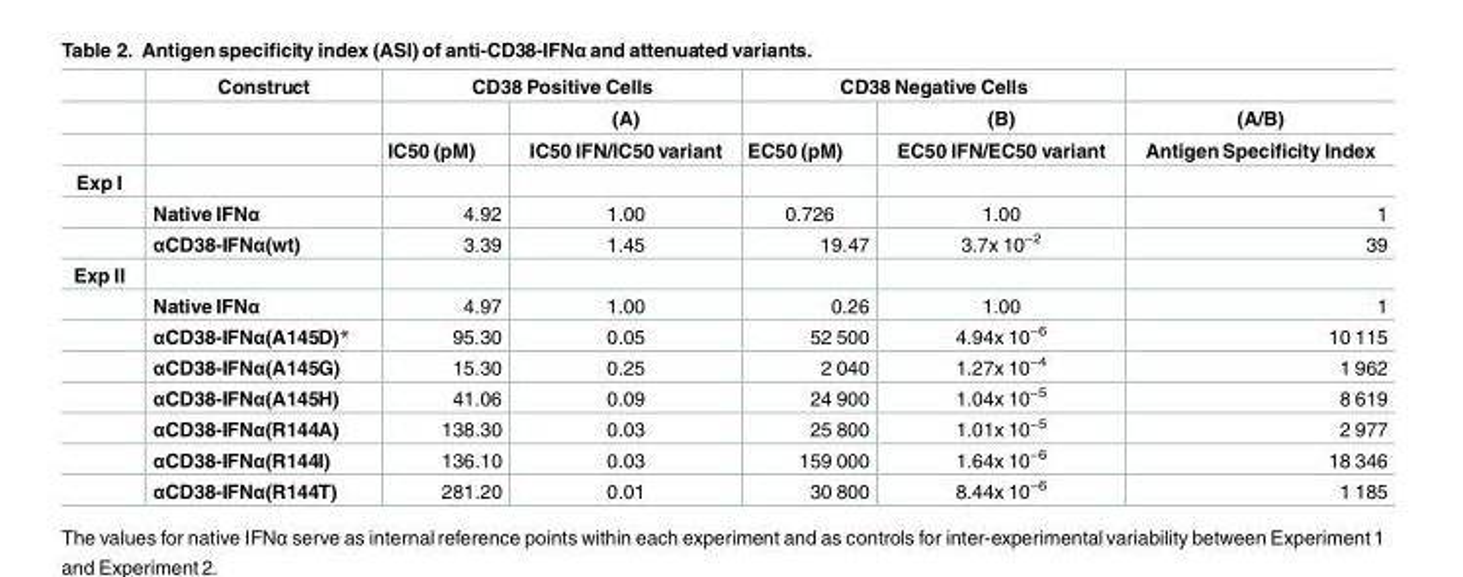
<table><thead><tr><td rowspan="3"></td><td rowspan="3">Construct</td><td colspan="2">CD38 Positive Cells</td><td colspan="2">CD38 Negative Cells</td><td rowspan="3">(A/B) Antigen Specificity Index</td></tr><tr><td rowspan="2">IC50 (pM)</td><td rowspan="2">(A) IC50 IFN/IC50 variant</td><td rowspan="2">EC50 (pM)</td><td rowspan="2">(B) EC50 IFN/EC50 variant</td></tr><tr></tr></thead><tbody><tr><td colspan="7">Exp I</td></tr><tr><td></td><td>Native IFNα</td><td>4.92</td><td>1.00</td><td>0.726</td><td>1.00</td><td>1</td></tr><tr><td></td><td>αCD38-IFNα(wt)</td><td>3.39</td><td>1.45</td><td>19.47</td><td>3.7x 10<sup>−2</sup></td><td>39</td></tr><tr><td colspan="7">Exp II</td></tr><tr><td></td><td>Native IFNα</td><td>4.97</td><td>1.00</td><td>0.26</td><td>1.00</td><td>1</td></tr><tr><td></td><td>αCD38-IFNα(A145D)*</td><td>95.30</td><td>0.05</td><td>52 500</td><td>4.94x 10<sup>−6</sup></td><td>10 115</td></tr><tr><td></td><td>αCD38-IFNα(A145G)</td><td>15.30</td><td>0.25</td><td>2 040</td><td>1.27x 10<sup>−4</sup></td><td>1 962</td></tr><tr><td></td><td>αCD38-IFNα(A145H)</td><td>41.06</td><td>0.09</td><td>24 900</td><td>1.04x 10<sup>−5</sup></td><td>8 619</td></tr><tr><td></td><td>αCD38-IFNα(R144A)</td><td>138.30</td><td>0.03</td><td>25 800</td><td>1.01x 10<sup>−5</sup></td><td>2 977</td></tr><tr><td></td><td>αCD38-IFNα(R144I)</td><td>136.10</td><td>0.03</td><td>159 000</td><td>1.64x 10<sup>−6</sup></td><td>18 346</td></tr><tr><td></td><td>αCD38-IFNα(R144T)</td><td>281.20</td><td>0.01</td><td>30 800</td><td>8.44x 10<sup>−6</sup></td><td>1 185</td></tr></tbody></table>